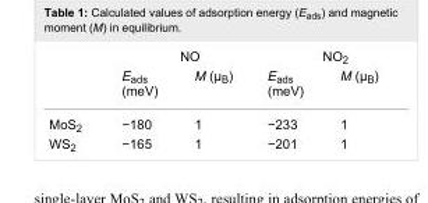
<table><thead><tr><td rowspan="2"></td><td colspan="2">NO</td><td colspan="2">NO<sub>2</sub></td></tr><tr><td>E<sub>ads</sub> (meV)</td><td>M (µ<sub>B</sub>)</td><td>E<sub>ads</sub> (meV)</td><td>M (µ<sub>B</sub>)</td></tr></thead><tbody><tr><td>MoS<sub>2</sub></td><td>−180</td><td>1</td><td>−233</td><td>1</td></tr><tr><td>WS<sub>2</sub></td><td>−165</td><td>1</td><td>−201</td><td>1</td></tr></tbody></table>